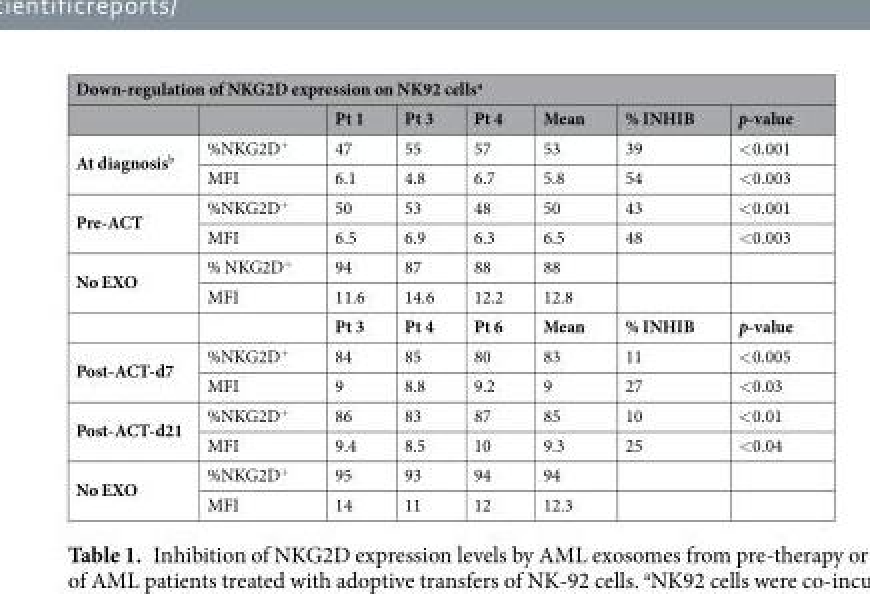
<table><thead><tr><td colspan="8">Down-regulation of NKG2D expression on NK92 cells<sup>a</sup></td></tr><tr><td></td><td></td><td>Pt 1</td><td>Pt 3</td><td>Pt 4</td><td>Mean</td><td>% INHIB</td><td>p-value</td></tr></thead><tbody><tr><td rowspan="2">At diagnosis<sup>b</sup></td><td>%NKG2D<sup>+</sup></td><td>47</td><td>55</td><td>57</td><td>53</td><td>39</td><td>&lt;0.001</td></tr><tr><td>MFI</td><td>6.1</td><td>4.8</td><td>6.7</td><td>5.8</td><td>54</td><td>&lt;0.003</td></tr><tr><td rowspan="2">Pre-ACT</td><td>%NKG2D<sup>+</sup></td><td>50</td><td>53</td><td>48</td><td>50</td><td>43</td><td>&lt;0.001</td></tr><tr><td>MFI</td><td>6.5</td><td>6.9</td><td>6.3</td><td>6.5</td><td>48</td><td>&lt;0.003</td></tr><tr><td rowspan="3">No EXO</td><td>% NKG2D<sup>+</sup></td><td>94</td><td>87</td><td>88</td><td>88</td><td></td><td></td></tr><tr><td>MFI</td><td>11.6</td><td>14.6</td><td>12.2</td><td>12.8</td><td></td><td></td></tr><tr><td></td><td>Pt 3</td><td>Pt 4</td><td>Pt 6</td><td>Mean</td><td>% INHIB</td><td>p-value</td></tr><tr><td rowspan="2">Post-ACT-d7</td><td>%NKG2D<sup>+</sup></td><td>84</td><td>85</td><td>80</td><td>83</td><td>11</td><td>&lt;0.005</td></tr><tr><td>MFI</td><td>9</td><td>8.8</td><td>9.2</td><td>9</td><td>27</td><td>&lt;0.03</td></tr><tr><td rowspan="2">Post-ACT-d21</td><td>%NKG2D<sup>+</sup></td><td>86</td><td>83</td><td>87</td><td>85</td><td>10</td><td>&lt;0.01</td></tr><tr><td>MFI</td><td>9.4</td><td>8.5</td><td>10</td><td>9.3</td><td>25</td><td>&lt;0.04</td></tr><tr><td rowspan="2">No EXO</td><td>%NKG2D<sup>+</sup></td><td>95</td><td>93</td><td>94</td><td>94</td><td></td><td></td></tr><tr><td>MFI</td><td>14</td><td>11</td><td>12</td><td>12.3</td><td></td><td></td></tr></tbody></table>